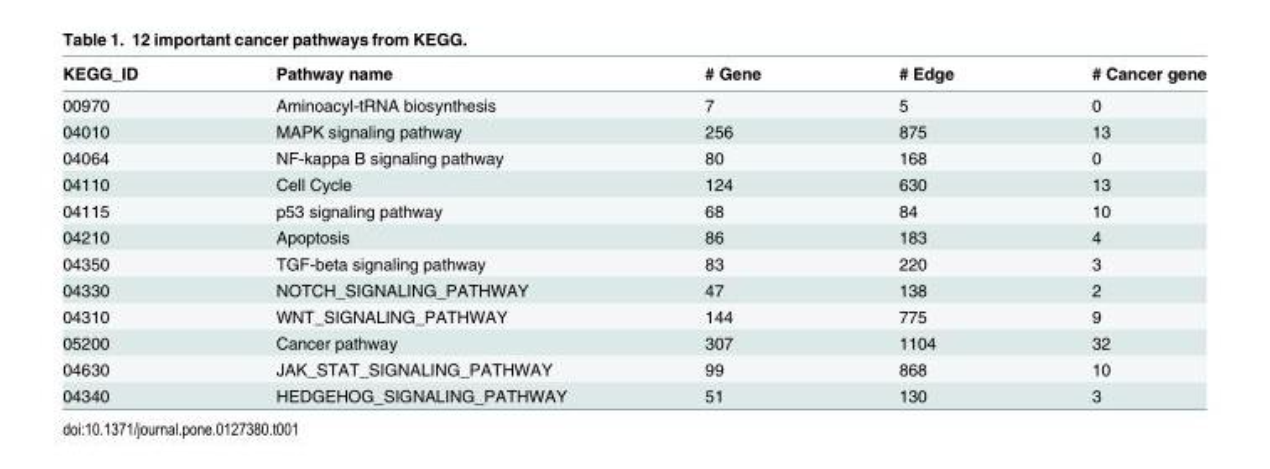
<table><thead><tr><td>KEGG_ID</td><td>Pathway name</td><td># Gene</td><td># Edge</td><td># Cancer gene</td></tr></thead><tbody><tr><td>00970</td><td>Aminoacyl-tRNA biosynthesis</td><td>7</td><td>5</td><td>0</td></tr><tr><td>04010</td><td>MAPK signaling pathway</td><td>256</td><td>875</td><td>13</td></tr><tr><td>04064</td><td>NF-kappa B signaling pathway</td><td>80</td><td>168</td><td>0</td></tr><tr><td>04110</td><td>Cell Cycle</td><td>124</td><td>630</td><td>13</td></tr><tr><td>04115</td><td>p53 signaling pathway</td><td>68</td><td>84</td><td>10</td></tr><tr><td>04210</td><td>Apoptosis</td><td>86</td><td>183</td><td>4</td></tr><tr><td>04350</td><td>TGF-beta signaling pathway</td><td>83</td><td>220</td><td>3</td></tr><tr><td>04330</td><td>NOTCH_SIGNALING_PATHWAY</td><td>47</td><td>138</td><td>2</td></tr><tr><td>04310</td><td>WNT_SIGNALING_PATHWAY</td><td>144</td><td>775</td><td>9</td></tr><tr><td>05200</td><td>Cancer pathway</td><td>307</td><td>1104</td><td>32</td></tr><tr><td>04630</td><td>JAK_STAT_SIGNALING_PATHWAY</td><td>99</td><td>868</td><td>10</td></tr><tr><td>04340</td><td>HEDGEHOG_SIGNALING_PATHWAY</td><td>51</td><td>130</td><td>3</td></tr></tbody></table>